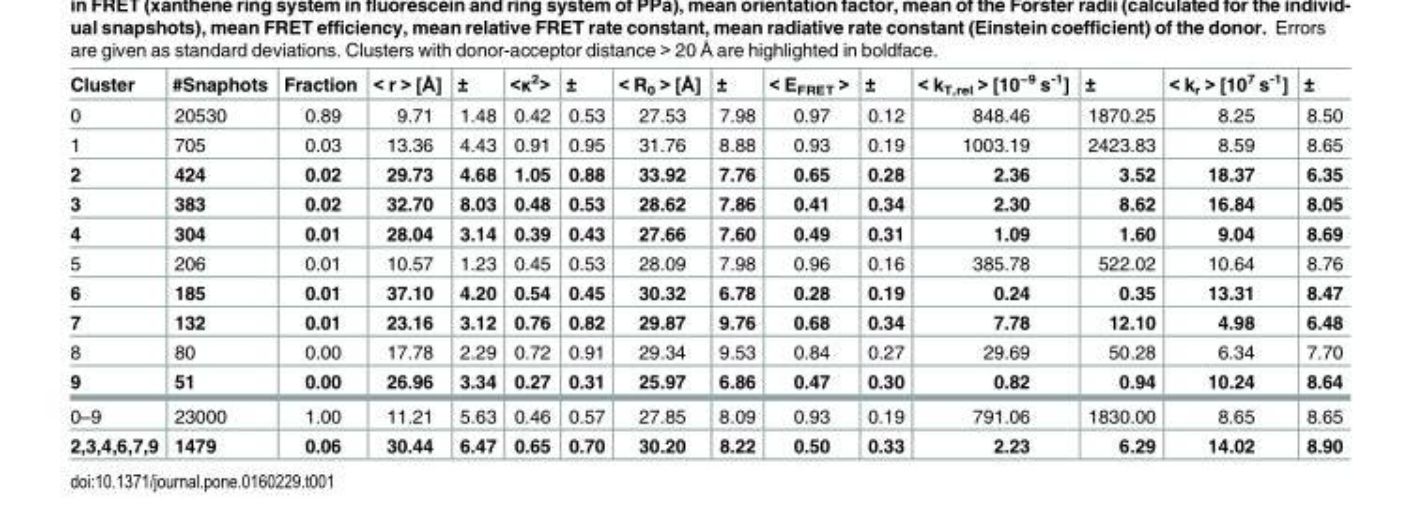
<table><thead><tr><td>Cluster</td><td>#Snaphots</td><td>Fraction</td><td>&lt; r &gt; [Å]</td><td>±</td><td>&lt;κ<sup>2</sup>&gt;</td><td>±</td><td>&lt; R<sub>0</sub> &gt; [Å]</td><td>±</td><td>&lt; E<sub>FRET</sub> &gt;</td><td>±</td><td>&lt; k<sub>T,rel</sub> &gt; [10<sup>−9</sup> s<sup>-1</sup>]</td><td>±</td><td>&lt; k<sub>r</sub> &gt; [10<sup>7</sup> s<sup>-1</sup>]</td><td>±</td></tr></thead><tbody><tr><td>0</td><td>20530</td><td>0.89</td><td>9.71</td><td>1.48</td><td>0.42</td><td>0.53</td><td>27.53</td><td>7.98</td><td>0.97</td><td>0.12</td><td>848.46</td><td>1870.25</td><td>8.25</td><td>8.50</td></tr><tr><td>1</td><td>705</td><td>0.03</td><td>13.36</td><td>4.43</td><td>0.91</td><td>0.95</td><td>31.76</td><td>8.88</td><td>0.93</td><td>0.19</td><td>1003.19</td><td>2423.83</td><td>8.59</td><td>8.65</td></tr><tr><td>2</td><td>424</td><td>0.02</td><td>29.73</td><td>4.68</td><td>1.05</td><td>0.88</td><td>33.92</td><td>7.76</td><td>0.65</td><td>0.28</td><td>2.36</td><td>3.52</td><td>18.37</td><td>6.35</td></tr><tr><td>3</td><td>383</td><td>0.02</td><td>32.70</td><td>8.03</td><td>0.48</td><td>0.53</td><td>28.62</td><td>7.86</td><td>0.41</td><td>0.34</td><td>2.30</td><td>8.62</td><td>16.84</td><td>8.05</td></tr><tr><td>4</td><td>304</td><td>0.01</td><td>28.04</td><td>3.14</td><td>0.39</td><td>0.43</td><td>27.66</td><td>7.60</td><td>0.49</td><td>0.31</td><td>1.09</td><td>1.60</td><td>9.04</td><td>8.69</td></tr><tr><td>5</td><td>206</td><td>0.01</td><td>10.57</td><td>1.23</td><td>0.45</td><td>0.53</td><td>28.09</td><td>7.98</td><td>0.96</td><td>0.16</td><td>385.78</td><td>522.02</td><td>10.64</td><td>8.76</td></tr><tr><td>6</td><td>185</td><td>0.01</td><td>37.10</td><td>4.20</td><td>0.54</td><td>0.45</td><td>30.32</td><td>6.78</td><td>0.28</td><td>0.19</td><td>0.24</td><td>0.35</td><td>13.31</td><td>8.47</td></tr><tr><td>7</td><td>132</td><td>0.01</td><td>23.16</td><td>3.12</td><td>0.76</td><td>0.82</td><td>29.87</td><td>9.76</td><td>0.68</td><td>0.34</td><td>7.78</td><td>12.10</td><td>4.98</td><td>6.48</td></tr><tr><td>8</td><td>80</td><td>0.00</td><td>17.78</td><td>2.29</td><td>0.72</td><td>0.91</td><td>29.34</td><td>9.53</td><td>0.84</td><td>0.27</td><td>29.69</td><td>50.28</td><td>6.34</td><td>7.70</td></tr><tr><td>9</td><td>51</td><td>0.00</td><td>26.96</td><td>3.34</td><td>0.27</td><td>0.31</td><td>25.97</td><td>6.86</td><td>0.47</td><td>0.30</td><td>0.82</td><td>0.94</td><td>10.24</td><td>8.64</td></tr><tr><td>0–9</td><td>23000</td><td>1.00</td><td>11.21</td><td>5.63</td><td>0.46</td><td>0.57</td><td>27.85</td><td>8.09</td><td>0.93</td><td>0.19</td><td>791.06</td><td>1830.00</td><td>8.65</td><td>8.65</td></tr><tr><td>2,3,4,6,7,9</td><td>1479</td><td>0.06</td><td>30.44</td><td>6.47</td><td>0.65</td><td>0.70</td><td>30.20</td><td>8.22</td><td>0.50</td><td>0.33</td><td>2.23</td><td>6.29</td><td>14.02</td><td>8.90</td></tr></tbody></table>